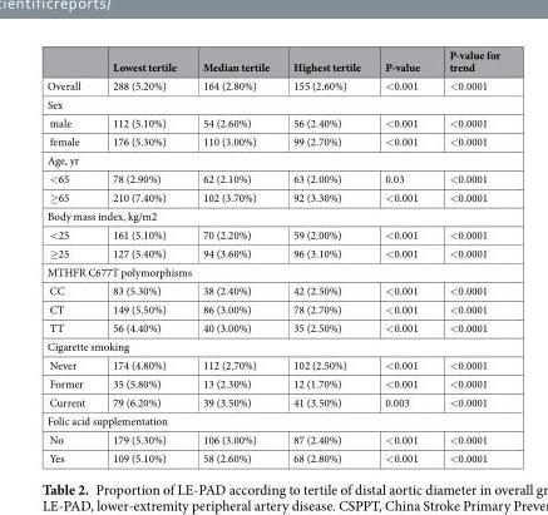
<table><thead><tr><td></td><td>Lowest tertile</td><td>Median tertile</td><td>Highest tertile</td><td>P-value</td><td>P-value for trend</td></tr></thead><tbody><tr><td>Overall</td><td>288 (5.20%)</td><td>164 (2.80%)</td><td>155 (2.60%)</td><td>&lt;0.001</td><td>&lt;0.0001</td></tr><tr><td colspan="6">Sex</td></tr><tr><td>male</td><td>112 (5.10%)</td><td>54 (2.60%)</td><td>56 (2.40%)</td><td>&lt;0.001</td><td>&lt;0.0001</td></tr><tr><td>female</td><td>176 (5.30%)</td><td>110 (3.00%)</td><td>99 (2.70%)</td><td>&lt;0.001</td><td>&lt;0.0001</td></tr><tr><td colspan="6">Age, yr</td></tr><tr><td>&lt;65</td><td>78 (2.90%)</td><td>62 (2.10%)</td><td>63 (2.00%)</td><td>0.03</td><td>&lt;0.0001</td></tr><tr><td>≥65</td><td>210 (7.40%)</td><td>102 (3.70%)</td><td>92 (3.30%)</td><td>&lt;0.001</td><td>&lt;0.0001</td></tr><tr><td colspan="6">Body mass index, kg/m2</td></tr><tr><td>&lt;25</td><td>161 (5.10%)</td><td>70 (2.20%)</td><td>59 (2.00%)</td><td>&lt;0.001</td><td>&lt;0.0001</td></tr><tr><td>≥25</td><td>127 (5.40%)</td><td>94 (3.60%)</td><td>96 (3.10%)</td><td>&lt;0.001</td><td>&lt;0.0001</td></tr><tr><td colspan="6">MTHFR C677T polymorphisms</td></tr><tr><td>CC</td><td>83 (5.30%)</td><td>38 (2.40%)</td><td>42 (2.50%)</td><td>&lt;0.001</td><td>&lt;0.0001</td></tr><tr><td>CT</td><td>149 (5.50%)</td><td>86 (3.00%)</td><td>78 (2.70%)</td><td>&lt;0.001</td><td>&lt;0.0001</td></tr><tr><td>TT</td><td>56 (4.40%)</td><td>40 (3.00%)</td><td>35 (2.50%)</td><td>&lt;0.001</td><td>&lt;0.0001</td></tr><tr><td colspan="6">Cigarette smoking</td></tr><tr><td>Never</td><td>174 (4.80%)</td><td>112 (2.70%)</td><td>102 (2.50%)</td><td>&lt;0.001</td><td>&lt;0.0001</td></tr><tr><td>Former</td><td>35 (5.80%)</td><td>13 (2.30%)</td><td>12 (1.70%)</td><td>&lt;0.001</td><td>&lt;0.0001</td></tr><tr><td>Current</td><td>79 (6.20%)</td><td>39 (3.50%)</td><td>41 (3.50%)</td><td>0.003</td><td>&lt;0.0001</td></tr><tr><td colspan="6">Folic acid supplementation</td></tr><tr><td>No</td><td>179 (5.30%)</td><td>106 (3.00%)</td><td>87 (2.40%)</td><td>&lt;0.001</td><td>&lt;0.0001</td></tr><tr><td>Yes</td><td>109 (5.10%)</td><td>58 (2.60%)</td><td>68 (2.80%)</td><td>&lt;0.001</td><td>&lt;0.0001</td></tr></tbody></table>